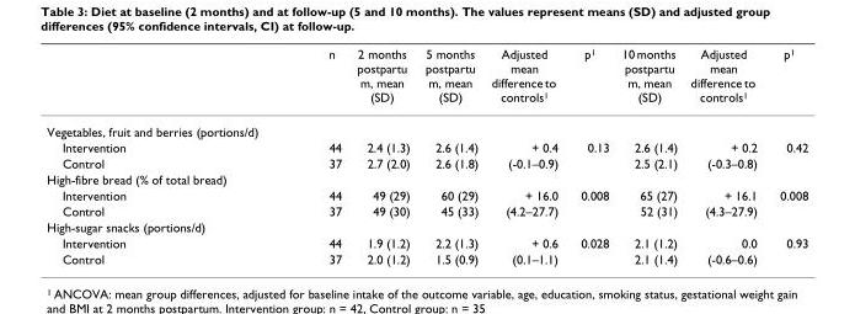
<table><thead><tr><td></td><td>n</td><td>2 months postpartu m, mean (SD)</td><td>5 months postpartu m, mean (SD)</td><td>Adjusted mean difference to controls<sup>1</sup></td><td>p<sup>1</sup></td><td>10 months postpartu m, mean (SD)</td><td>Adjusted mean difference to controls<sup>1</sup></td><td>p<sup>1</sup></td></tr></thead><tbody><tr><td colspan="9">Vegetables, fruit and berries (portions/d)</td></tr><tr><td>Intervention</td><td>44</td><td>2.4 (1.3)</td><td>2.6 (1.4)</td><td>+ 0.4</td><td>0.13</td><td>2.6 (1.4)</td><td>+ 0.2</td><td>0.42</td></tr><tr><td>Control</td><td>37</td><td>2.7 (2.0)</td><td>2.6 (1.8)</td><td>(-0.1–0.9)</td><td></td><td>2.5 (2.1)</td><td>(-0.3–0.8)</td><td></td></tr><tr><td colspan="9">High-fibre bread (% of total bread)</td></tr><tr><td>Intervention</td><td>44</td><td>49 (29)</td><td>60 (29)</td><td>+ 16.0</td><td>0.008</td><td>65 (27)</td><td>+ 16.1</td><td>0.008</td></tr><tr><td>Control</td><td>37</td><td>49 (30)</td><td>45 (33)</td><td>(4.2–27.7)</td><td></td><td>52 (31)</td><td>(4.3–27.9)</td><td></td></tr><tr><td colspan="9">High-sugar snacks (portions/d)</td></tr><tr><td>Intervention</td><td>44</td><td>1.9 (1.2)</td><td>2.2 (1.3)</td><td>+ 0.6</td><td>0.028</td><td>2.1 (1.2)</td><td>0.0</td><td>0.93</td></tr><tr><td>Control</td><td>37</td><td>2.0 (1.2)</td><td>1.5 (0.9)</td><td>(0.1–1.1)</td><td></td><td>2.1 (1.4)</td><td>(-0.6–0.6)</td><td></td></tr></tbody></table>